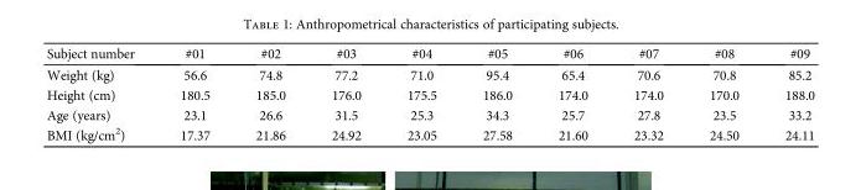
<table><thead><tr><td>Subject number</td><td>#01</td><td>#02</td><td>#03</td><td>#04</td><td>#05</td><td>#06</td><td>#07</td><td>#08</td><td>#09</td></tr></thead><tbody><tr><td>Weight (kg)</td><td>56.6</td><td>74.8</td><td>77.2</td><td>71.0</td><td>95.4</td><td>65.4</td><td>70.6</td><td>70.8</td><td>85.2</td></tr><tr><td>Height (cm)</td><td>180.5</td><td>185.0</td><td>176.0</td><td>175.5</td><td>186.0</td><td>174.0</td><td>174.0</td><td>170.0</td><td>188.0</td></tr><tr><td>Age (years)</td><td>23.1</td><td>26.6</td><td>31.5</td><td>25.3</td><td>34.3</td><td>25.7</td><td>27.8</td><td>23.5</td><td>33.2</td></tr><tr><td>BMI (kg/cm<sup>2</sup>)</td><td>17.37</td><td>21.86</td><td>24.92</td><td>23.05</td><td>27.58</td><td>21.60</td><td>23.32</td><td>24.50</td><td>24.11</td></tr></tbody></table>